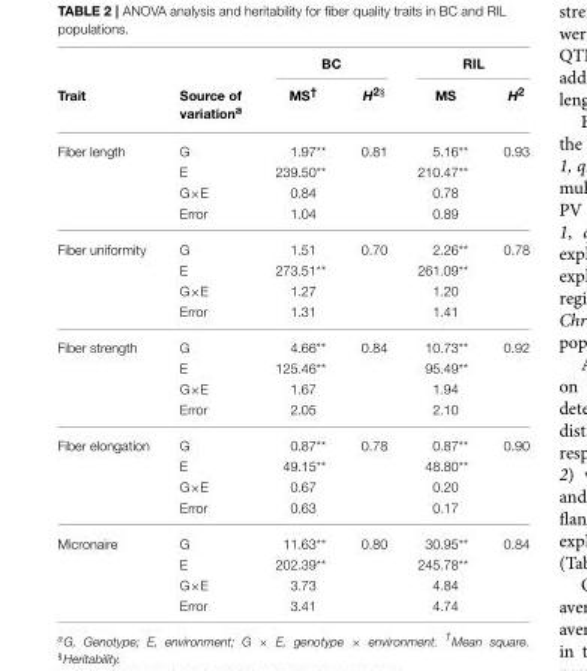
<table><thead><tr><td rowspan="2">Trait</td><td rowspan="2">Source of variation<sup>a</sup></td><td colspan="2">BC</td><td colspan="2">RIL</td></tr><tr><td>MS<sup>†</sup></td><td>H<sup>2§</sup></td><td>MS</td><td>H<sup>2</sup></td></tr></thead><tbody><tr><td rowspan="4">Fiber length</td><td>G</td><td>1.97**</td><td>0.81</td><td>5.16**</td><td>0.93</td></tr><tr><td>E</td><td>239.50**</td><td></td><td>210.47**</td><td></td></tr><tr><td>G×E</td><td>0.84</td><td></td><td>0.78</td><td></td></tr><tr><td>Error</td><td>1.04</td><td></td><td>0.89</td><td></td></tr><tr><td rowspan="4">Fiber uniformity</td><td>G</td><td>1.51</td><td>0.70</td><td>2.26**</td><td>0.78</td></tr><tr><td>E</td><td>273.51**</td><td></td><td>261.09**</td><td></td></tr><tr><td>G×E</td><td>1.27</td><td></td><td>1.20</td><td></td></tr><tr><td>Error</td><td>1.31</td><td></td><td>1.41</td><td></td></tr><tr><td rowspan="4">Fiber strength</td><td>G</td><td>4.66**</td><td>0.84</td><td>10.73**</td><td>0.92</td></tr><tr><td>E</td><td>125.46**</td><td></td><td>95.49**</td><td></td></tr><tr><td>G×E</td><td>1.67</td><td></td><td>1.94</td><td></td></tr><tr><td>Error</td><td>2.05</td><td></td><td>2.10</td><td></td></tr><tr><td rowspan="4">Fiber elongation</td><td>G</td><td>0.87**</td><td>0.78</td><td>0.87**</td><td>0.90</td></tr><tr><td>E</td><td>49.15**</td><td></td><td>48.80**</td><td></td></tr><tr><td>G×E</td><td>0.67</td><td></td><td>0.20</td><td></td></tr><tr><td>Error</td><td>0.63</td><td></td><td>0.17</td><td></td></tr><tr><td rowspan="4">Micronaire</td><td>G</td><td>11.63**</td><td>0.80</td><td>30.95**</td><td>0.84</td></tr><tr><td>E</td><td>202.39**</td><td></td><td>245.78**</td><td></td></tr><tr><td>G×E</td><td>3.73</td><td></td><td>4.84</td><td></td></tr><tr><td>Error</td><td>3.41</td><td></td><td>4.74</td><td></td></tr></tbody></table>